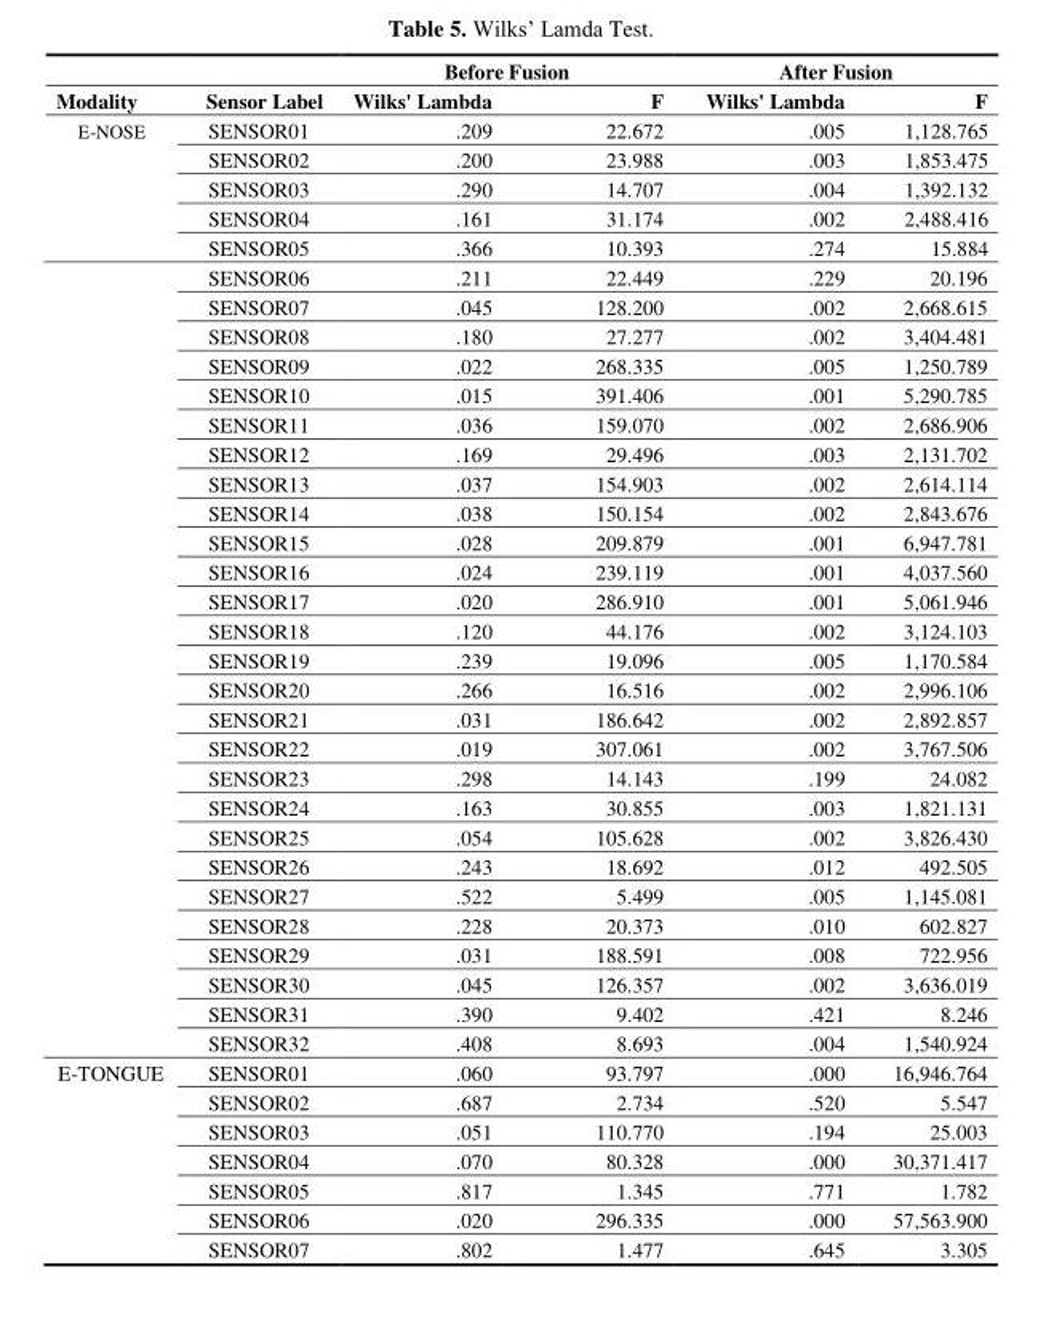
<table><thead><tr><td rowspan="2">Modality</td><td rowspan="2">Sensor Label</td><td colspan="2">Before Fusion</td><td colspan="2">After Fusion</td></tr><tr><td>Wilks&#x27; Lambda</td><td>F</td><td>Wilks&#x27; Lambda</td><td>F</td></tr></thead><tbody><tr><td rowspan="32">E-NOSE</td><td>SENSOR01</td><td>.209</td><td>22.672</td><td>.005</td><td>1,128.765</td></tr><tr><td>SENSOR02</td><td>.200</td><td>23.988</td><td>.003</td><td>1,853.475</td></tr><tr><td>SENSOR03</td><td>.290</td><td>14.707</td><td>.004</td><td>1,392.132</td></tr><tr><td>SENSOR04</td><td>.161</td><td>31.174</td><td>.002</td><td>2,488.416</td></tr><tr><td>SENSOR05</td><td>.366</td><td>10.393</td><td>.274</td><td>15.884</td></tr><tr><td>SENSOR06</td><td>.211</td><td>22.449</td><td>.229</td><td>20.196</td></tr><tr><td>SENSOR07</td><td>.045</td><td>128.200</td><td>.002</td><td>2,668.615</td></tr><tr><td>SENSOR08</td><td>.180</td><td>27.277</td><td>.002</td><td>3,404.481</td></tr><tr><td>SENSOR09</td><td>.022</td><td>268.335</td><td>.005</td><td>1,250.789</td></tr><tr><td>SENSOR10</td><td>.015</td><td>391.406</td><td>.001</td><td>5,290.785</td></tr><tr><td>SENSOR11</td><td>.036</td><td>159.070</td><td>.002</td><td>2,686.906</td></tr><tr><td>SENSOR12</td><td>.169</td><td>29.496</td><td>.003</td><td>2,131.702</td></tr><tr><td>SENSOR13</td><td>.037</td><td>154.903</td><td>.002</td><td>2,614.114</td></tr><tr><td>SENSOR14</td><td>.038</td><td>150.154</td><td>.002</td><td>2,843.676</td></tr><tr><td>SENSOR15</td><td>.028</td><td>209.879</td><td>.001</td><td>6,947.781</td></tr><tr><td>SENSOR16</td><td>.024</td><td>239.119</td><td>.001</td><td>4,037.560</td></tr><tr><td>SENSOR17</td><td>.020</td><td>286.910</td><td>.001</td><td>5,061.946</td></tr><tr><td>SENSOR18</td><td>.120</td><td>44.176</td><td>.002</td><td>3,124.103</td></tr><tr><td>SENSOR19</td><td>.239</td><td>19.096</td><td>.005</td><td>1,170.584</td></tr><tr><td>SENSOR20</td><td>.266</td><td>16.516</td><td>.002</td><td>2,996.106</td></tr><tr><td>SENSOR21</td><td>.031</td><td>186.642</td><td>.002</td><td>2,892.857</td></tr><tr><td>SENSOR22</td><td>.019</td><td>307.061</td><td>.002</td><td>3,767.506</td></tr><tr><td>SENSOR23</td><td>.298</td><td>14.143</td><td>.199</td><td>24.082</td></tr><tr><td>SENSOR24</td><td>.163</td><td>30.855</td><td>.003</td><td>1,821.131</td></tr><tr><td>SENSOR25</td><td>.054</td><td>105.628</td><td>.002</td><td>3,826.430</td></tr><tr><td>SENSOR26</td><td>.243</td><td>18.692</td><td>.012</td><td>492.505</td></tr><tr><td>SENSOR27</td><td>.522</td><td>5.499</td><td>.005</td><td>1,145.081</td></tr><tr><td>SENSOR28</td><td>.228</td><td>20.373</td><td>.010</td><td>602.827</td></tr><tr><td>SENSOR29</td><td>.031</td><td>188.591</td><td>.008</td><td>722.956</td></tr><tr><td>SENSOR30</td><td>.045</td><td>126.357</td><td>.002</td><td>3,636.019</td></tr><tr><td>SENSOR31</td><td>.390</td><td>9.402</td><td>.421</td><td>8.246</td></tr><tr><td>SENSOR32</td><td>.408</td><td>8.693</td><td>.004</td><td>1,540.924</td></tr><tr><td rowspan="7">E-TONGUE</td><td>SENSOR01</td><td>.060</td><td>93.797</td><td>.000</td><td>16,946.764</td></tr><tr><td>SENSOR02</td><td>.687</td><td>2.734</td><td>.520</td><td>5.547</td></tr><tr><td>SENSOR03</td><td>.051</td><td>110.770</td><td>.194</td><td>25.003</td></tr><tr><td>SENSOR04</td><td>.070</td><td>80.328</td><td>.000</td><td>30,371.417</td></tr><tr><td>SENSOR05</td><td>.817</td><td>1.345</td><td>.771</td><td>1.782</td></tr><tr><td>SENSOR06</td><td>.020</td><td>296.335</td><td>.000</td><td>57,563.900</td></tr><tr><td>SENSOR07</td><td>.802</td><td>1.477</td><td>.645</td><td>3.305</td></tr></tbody></table>